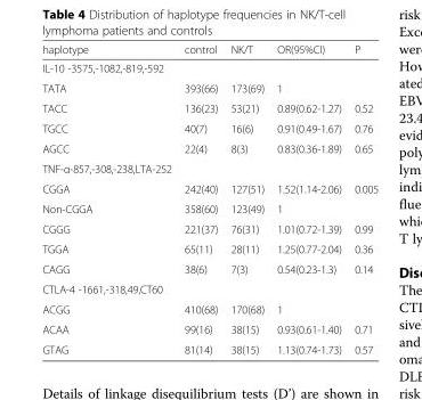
<table><thead><tr><td>haplotype</td><td>control</td><td>NK/T</td><td>OR(95%CI)</td><td>P</td></tr></thead><tbody><tr><td colspan="5">IL-10 -3575,-1082,-819,-592</td></tr><tr><td>TATA</td><td>393(66)</td><td>173(69)</td><td>1</td><td></td></tr><tr><td>TACC</td><td>136(23)</td><td>53(21)</td><td>0.89(0.62-1.27)</td><td>0.52</td></tr><tr><td>TGCC</td><td>40(7)</td><td>16(6)</td><td>0.91(0.49-1.67)</td><td>0.76</td></tr><tr><td>AGCC</td><td>22(4)</td><td>8(3)</td><td>0.83(0.36-1.89)</td><td>0.65</td></tr><tr><td colspan="5">TNF-α-857,-308,-238,LTA-252</td></tr><tr><td>CGGA</td><td>242(40)</td><td>127(51)</td><td>1.52(1.14-2.06)</td><td>0.005</td></tr><tr><td>Non-CGGA</td><td>358(60)</td><td>123(49)</td><td>1</td><td></td></tr><tr><td>CGGG</td><td>221(37)</td><td>76(31)</td><td>1.01(0.72-1.39)</td><td>0.99</td></tr><tr><td>TGGA</td><td>65(11)</td><td>28(11)</td><td>1.25(0.77-2.04)</td><td>0.36</td></tr><tr><td>CAGG</td><td>38(6)</td><td>7(3)</td><td>0.54(0.23-1.3)</td><td>0.14</td></tr><tr><td colspan="5">CTLA-4 -1661,-318,49,CT60</td></tr><tr><td>ACGG</td><td>410(68)</td><td>170(68)</td><td>1</td><td></td></tr><tr><td>ACAA</td><td>99(16)</td><td>38(15)</td><td>0.93(0.61-1.40)</td><td>0.71</td></tr><tr><td>GTAG</td><td>81(14)</td><td>38(15)</td><td>1.13(0.74-1.73)</td><td>0.57</td></tr></tbody></table>